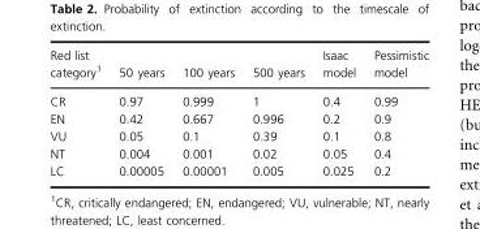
<table><thead><tr><td>Red list category1</td><td>50 years</td><td>100 years</td><td>500 years</td><td>Isaac model</td><td>Pessimistic model</td></tr></thead><tbody><tr><td>CR</td><td>0.97</td><td>0.999</td><td>1</td><td>0.4</td><td>0.99</td></tr><tr><td>EN</td><td>0.42</td><td>0.667</td><td>0.996</td><td>0.2</td><td>0.9</td></tr><tr><td>VU</td><td>0.05</td><td>0.1</td><td>0.39</td><td>0.1</td><td>0.8</td></tr><tr><td>NT</td><td>0.004</td><td>0.001</td><td>0.02</td><td>0.05</td><td>0.4</td></tr><tr><td>LC</td><td>0.00005</td><td>0.00001</td><td>0.005</td><td>0.025</td><td>0.2</td></tr></tbody></table>